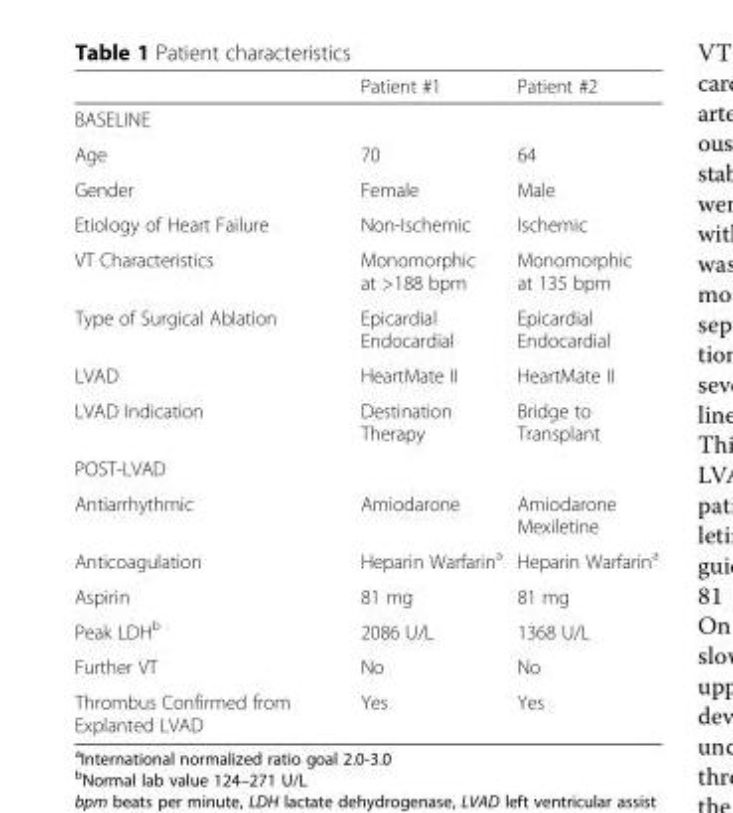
<table><thead><tr><td></td><td>Patient #1</td><td>Patient #2</td></tr></thead><tbody><tr><td colspan="3">BASELINE</td></tr><tr><td>Age</td><td>70</td><td>64</td></tr><tr><td>Gender</td><td>Female</td><td>Male</td></tr><tr><td>Etiology of Heart Failure</td><td>Non-Ischemic</td><td>Ischemic</td></tr><tr><td>VT Characteristics</td><td>Monomorphic at &gt;188 bpm</td><td>Monomorphic at 135 bpm</td></tr><tr><td>Type of Surgical Ablation</td><td>Epicardial Endocardial</td><td>Epicardial Endocardial</td></tr><tr><td>LVAD</td><td>HeartMate II</td><td>HeartMate II</td></tr><tr><td>LVAD Indication</td><td>Destination Therapy</td><td>Bridge to Transplant</td></tr><tr><td colspan="3">POST-LVAD</td></tr><tr><td>Antiarrhythmic</td><td>Amiodarone</td><td>Amiodarone Mexiletine</td></tr><tr><td>Anticoagulation</td><td>Heparin Warfarin<sup>a</sup></td><td>Heparin Warfarin<sup>a</sup></td></tr><tr><td>Aspirin</td><td>81 mg</td><td>81 mg</td></tr><tr><td>Peak LDH<sup>b</sup></td><td>2086 U/L</td><td>1368 U/L</td></tr><tr><td>Further VT</td><td>No</td><td>No</td></tr><tr><td>Thrombus Confirmed from Explanted LVAD</td><td>Yes</td><td>Yes</td></tr></tbody></table>